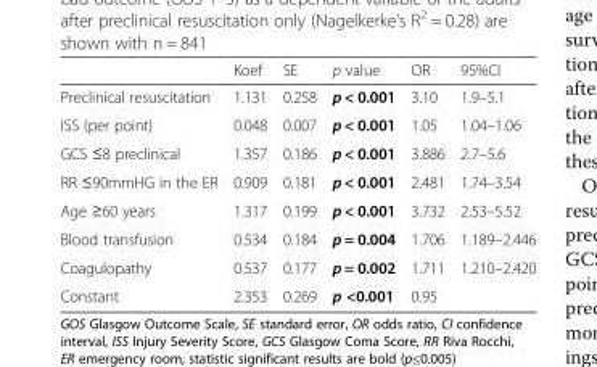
<table><thead><tr><td></td><td>Koef</td><td>SE</td><td>p value</td><td>OR</td><td>95%CI</td></tr></thead><tbody><tr><td>Preclinical resuscitation</td><td>1.131</td><td>0.258</td><td>p &lt; 0.001</td><td>3.10</td><td>1.9–5.1</td></tr><tr><td>ISS (per point)</td><td>0.048</td><td>0.007</td><td>p &lt; 0.001</td><td>1.05</td><td>1.04–1.06</td></tr><tr><td>GCS ≤8 preclinical</td><td>1.357</td><td>0.186</td><td>p &lt; 0.001</td><td>3.886</td><td>2.7–5.6</td></tr><tr><td>RR ≤90mmHG in the ER</td><td>0.909</td><td>0.181</td><td>p &lt; 0.001</td><td>2.481</td><td>1.74–3.54</td></tr><tr><td>Age ≥60 years</td><td>1.317</td><td>0.199</td><td>p &lt; 0.001</td><td>3.732</td><td>2.53–5.52</td></tr><tr><td>Blood transfusion</td><td>0.534</td><td>0.184</td><td>p = 0.004</td><td>1.706</td><td>1.189–2.446</td></tr><tr><td>Coagulopathy</td><td>0.537</td><td>0.177</td><td>p = 0.002</td><td>1.711</td><td>1.210–2.420</td></tr><tr><td>Constant</td><td>2.353</td><td>0.269</td><td>p &lt;0.001</td><td>0.95</td><td></td></tr></tbody></table>